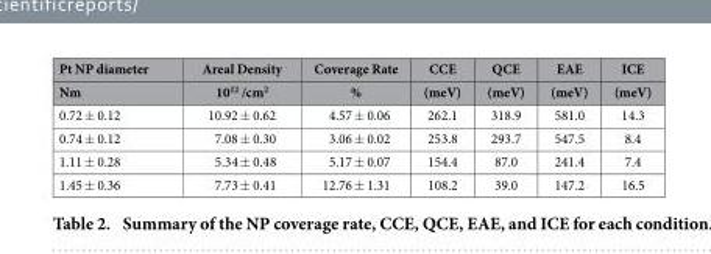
<table><thead><tr><td rowspan="2">Pt NP diameter Nm</td><td rowspan="2">Areal Density 10<sup>12</sup> /cm<sup>2</sup></td><td rowspan="2">Coverage Rate %</td><td rowspan="2">CCE (meV)</td><td rowspan="2">QCE (meV)</td><td rowspan="2">EAE (meV)</td><td rowspan="2">ICE (meV)</td></tr><tr></tr></thead><tbody><tr><td>0.72 ± 0.12</td><td>10.92 ± 0.62</td><td>4.57 ± 0.06</td><td>262.1</td><td>318.9</td><td>581.0</td><td>14.3</td></tr><tr><td>0.74 ± 0.12</td><td>7.08 ± 0.30</td><td>3.06 ± 0.02</td><td>253.8</td><td>293.7</td><td>547.5</td><td>8.4</td></tr><tr><td>1.11 ± 0.28</td><td>5.34 ± 0.48</td><td>5.17 ± 0.07</td><td>154.4</td><td>87.0</td><td>241.4</td><td>7.4</td></tr><tr><td>1.45 ± 0.36</td><td>7.73 ± 0.41</td><td>12.76 ± 1.31</td><td>108.2</td><td>39.0</td><td>147.2</td><td>16.5</td></tr></tbody></table>